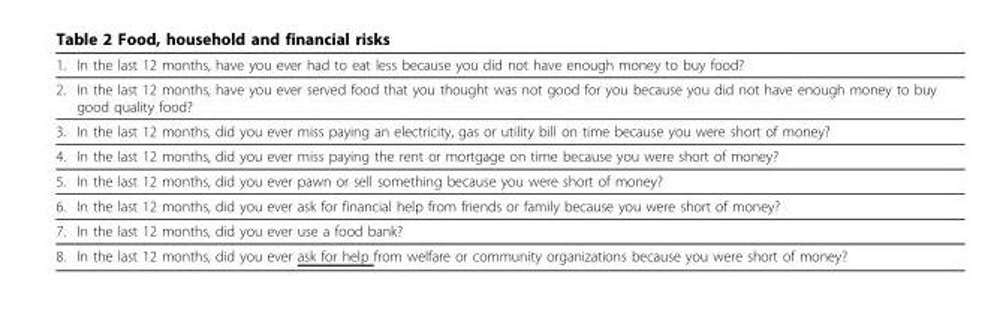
<table><thead><tr><td>1.</td><td>In the last 12 months, have you ever had to eat less because you did not have enough money to buy food?</td></tr></thead><tbody><tr><td>2.</td><td>In the last 12 months, have you ever served food that you thought was not good for you because you did not have enough money to buy good quality food?</td></tr><tr><td>3.</td><td>In the last 12 months, did you ever miss paying an electricity, gas or utility bill on time because you were short of money?</td></tr><tr><td>4.</td><td>In the last 12 months, did you ever miss paying the rent or mortgage on time because you were short of money?</td></tr><tr><td>5.</td><td>In the last 12 months, did you ever pawn or sell something because you were short of money?</td></tr><tr><td>6.</td><td>In the last 12 months, did you ever ask for financial help from friends or family because you were short of money?</td></tr><tr><td>7.</td><td>In the last 12 months, did you ever use a food bank?</td></tr><tr><td>8.</td><td>In the last 12 months, did you ever ask for help from welfare or community organizations because you were short of money?</td></tr></tbody></table>